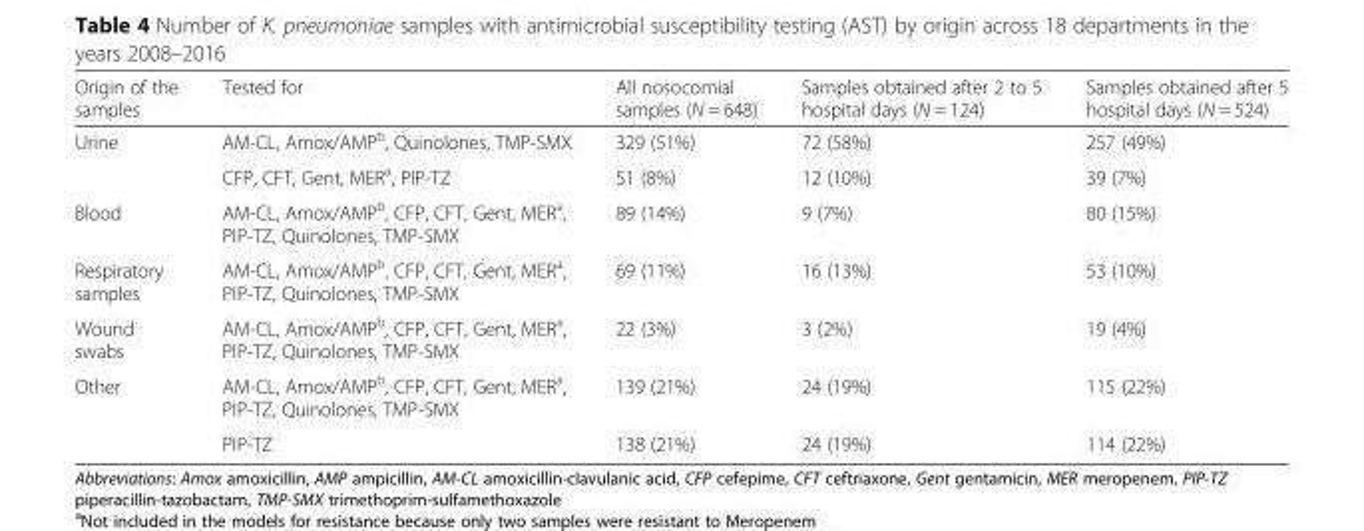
<table><thead><tr><td>Origin of the samples</td><td>Tested for</td><td>All nosocomial samples (N = 648)</td><td>Samples obtained after 2 to 5 hospital days (N = 124)</td><td>Samples obtained after 5 hospital days (N = 524)</td></tr></thead><tbody><tr><td rowspan="2">Urine</td><td>AM-CL, Amox/AMP<sup>b</sup>, Quinolones, TMP-SMX</td><td>329 (51%)</td><td>72 (58%)</td><td>257 (49%)</td></tr><tr><td>CFP, CFT, Gent, MER<sup>a</sup>, PIP-TZ</td><td>51 (8%)</td><td>12 (10%)</td><td>39 (7%)</td></tr><tr><td>Blood</td><td>AM-CL, Amox/AMP<sup>b</sup>, CFP, CFT, Gent, MER<sup>a</sup>, PIP-TZ, Quinolones, TMP-SMX</td><td>89 (14%)</td><td>9 (7%)</td><td>80 (15%)</td></tr><tr><td>Respiratory samples</td><td>AM-CL, Amox/AMP<sup>b</sup>, CFP, CFT, Gent, MER<sup>a</sup>, PIP-TZ, Quinolones, TMP-SMX</td><td>69 (11%)</td><td>16 (13%)</td><td>53 (10%)</td></tr><tr><td>Wound swabs</td><td>AM-CL, Amox/AMP<sup>b</sup>, CFP, CFT, Gent, MER<sup>a</sup>, PIP-TZ, Quinolones, TMP-SMX</td><td>22 (3%)</td><td>3 (2%)</td><td>19 (4%)</td></tr><tr><td rowspan="2">Other</td><td>AM-CL, Amox/AMP<sup>b</sup>, CFP, CFT, Gent, MER<sup>a</sup>, PIP-TZ, Quinolones, TMP-SMX</td><td>139 (21%)</td><td>24 (19%)</td><td>115 (22%)</td></tr><tr><td>PIP-TZ</td><td>138 (21%)</td><td>24 (19%)</td><td>114 (22%)</td></tr></tbody></table>